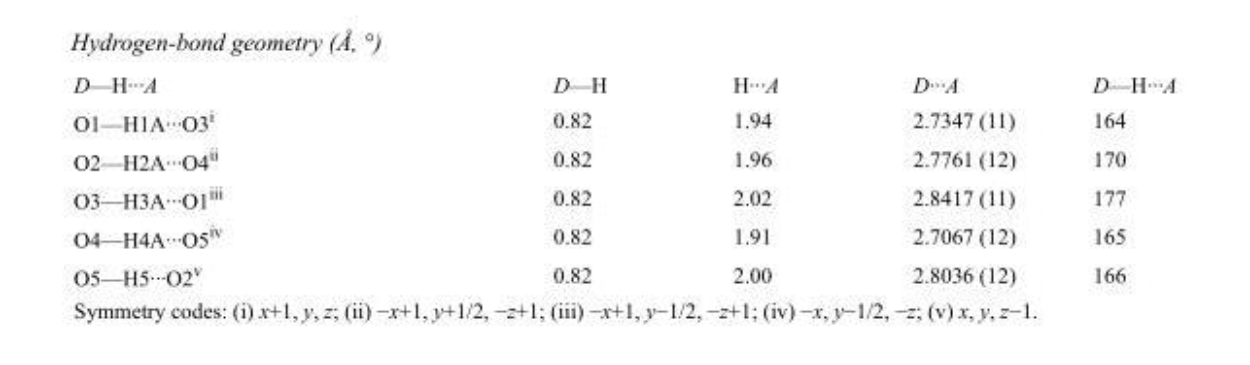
<table><tbody><tr><td>D—H···A</td><td>D—H</td><td>H···A</td><td>D···A</td><td>D—H···A</td></tr><tr><td>O1—H1A···O3<sup>i</sup></td><td>0.82</td><td>1.94</td><td>2.7347 (11)</td><td>164</td></tr><tr><td>O2—H2A···O4<sup>ii</sup></td><td>0.82</td><td>1.96</td><td>2.7761 (12)</td><td>170</td></tr><tr><td>O3—H3A···O1<sup>iii</sup></td><td>0.82</td><td>2.02</td><td>2.8417 (11)</td><td>177</td></tr><tr><td>O4—H4A···O5<sup>iv</sup></td><td>0.82</td><td>1.91</td><td>2.7067 (12)</td><td>165</td></tr><tr><td>O5—H5···O2<sup>v</sup></td><td>0.82</td><td>2.00</td><td>2.8036 (12)</td><td>166</td></tr></tbody></table>